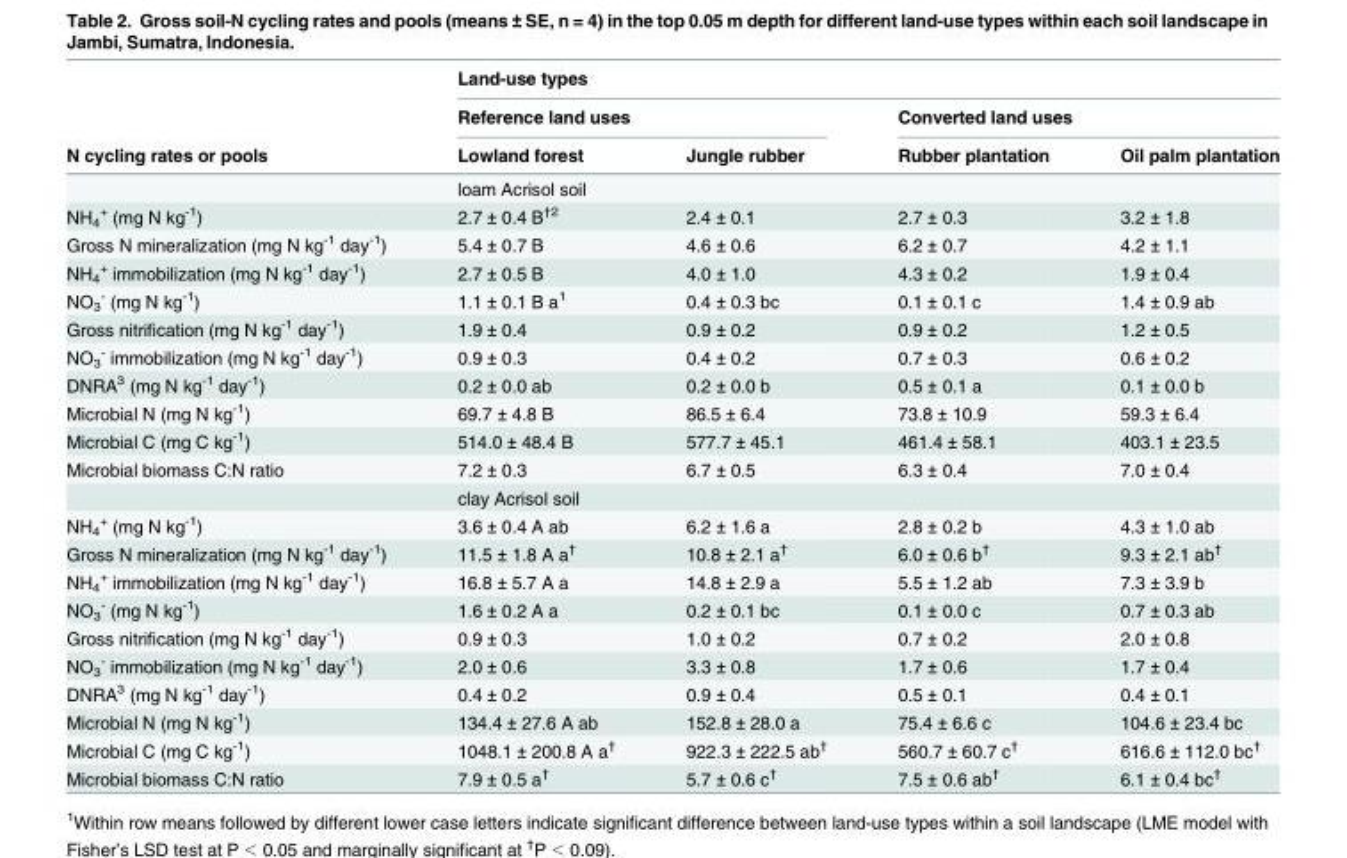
<table><thead><tr><td rowspan="3">N cycling rates or pools</td><td colspan="4">Land-use types</td></tr><tr><td colspan="2">Reference land uses</td><td colspan="2">Converted land uses</td></tr><tr><td>Lowland forest</td><td>Jungle rubber</td><td>Rubber plantation</td><td>Oil palm plantation</td></tr></thead><tbody><tr><td></td><td colspan="4">loam Acrisol soil</td></tr><tr><td>NH<sub>4</sub> <sup>+</sup> (mg N kg<sup>-1</sup>)</td><td>2.7 ± 0.4 B<sup>†2</sup></td><td>2.4 ± 0.1</td><td>2.7 ± 0.3</td><td>3.2 ± 1.8</td></tr><tr><td>Gross N mineralization (mg N kg<sup>-1</sup> day<sup>-1</sup>)</td><td>5.4 ± 0.7 B</td><td>4.6 ± 0.6</td><td>6.2 ± 0.7</td><td>4.2 ± 1.1</td></tr><tr><td>NH<sub>4</sub> <sup>+</sup> immobilization (mg N kg<sup>-1</sup> day<sup>-1</sup>)</td><td>2.7 ± 0.5 B</td><td>4.0 ± 1.0</td><td>4.3 ± 0.2</td><td>1.9 ± 0.4</td></tr><tr><td>NO<sub>3</sub> <sup>-</sup> (mg N kg<sup>-1</sup>)</td><td>1.1 ± 0.1 B a<sup>1</sup></td><td>0.4 ± 0.3 bc</td><td>0.1 ± 0.1 c</td><td>1.4 ± 0.9 ab</td></tr><tr><td>Gross nitrification (mg N kg<sup>-1</sup> day<sup>-1</sup>)</td><td>1.9 ± 0.4</td><td>0.9 ± 0.2</td><td>0.9 ± 0.2</td><td>1.2 ± 0.5</td></tr><tr><td>NO<sub>3</sub> <sup>-</sup> immobilization (mg N kg<sup>-1</sup> day<sup>-1</sup>)</td><td>0.9 ± 0.3</td><td>0.4 ± 0.2</td><td>0.7 ± 0.3</td><td>0.6 ± 0.2</td></tr><tr><td>DNRA<sup>3</sup> (mg N kg<sup>-1</sup> day<sup>-1</sup>)</td><td>0.2 ± 0.0 ab</td><td>0.2 ± 0.0 b</td><td>0.5 ± 0.1 a</td><td>0.1 ± 0.0 b</td></tr><tr><td>Microbial N (mg N kg<sup>-1</sup>)</td><td>69.7 ± 4.8 B</td><td>86.5 ± 6.4</td><td>73.8 ± 10.9</td><td>59.3 ± 6.4</td></tr><tr><td>Microbial C (mg C kg<sup>-1</sup>)</td><td>514.0 ± 48.4 B</td><td>577.7 ± 45.1</td><td>461.4 ± 58.1</td><td>403.1 ± 23.5</td></tr><tr><td rowspan="2">Microbial biomass C:N ratio</td><td>7.2 ± 0.3</td><td>6.7 ± 0.5</td><td>6.3 ± 0.4</td><td>7.0 ± 0.4</td></tr><tr><td colspan="4">clay Acrisol soil</td></tr><tr><td>NH<sub>4</sub> <sup>+</sup> (mg N kg<sup>-1</sup>)</td><td>3.6 ± 0.4 A ab</td><td>6.2 ± 1.6 a</td><td>2.8 ± 0.2 b</td><td>4.3 ± 1.0 ab</td></tr><tr><td>Gross N mineralization (mg N kg<sup>-1</sup> day<sup>-1</sup>)</td><td>11.5 ± 1.8 A a<sup>†</sup></td><td>10.8 ± 2.1 a<sup>†</sup></td><td>6.0 ± 0.6 b<sup>†</sup></td><td>9.3 ± 2.1 ab<sup>†</sup></td></tr><tr><td>NH<sub>4</sub> <sup>+</sup> immobilization (mg N kg<sup>-1</sup> day<sup>-1</sup>)</td><td>16.8 ± 5.7 A a</td><td>14.8 ± 2.9 a</td><td>5.5 ± 1.2 ab</td><td>7.3 ± 3.9 b</td></tr><tr><td>NO<sub>3</sub> <sup>-</sup> (mg N kg<sup>-1</sup>)</td><td>1.6 ± 0.2 A a</td><td>0.2 ± 0.1 bc</td><td>0.1 ± 0.0 c</td><td>0.7 ± 0.3 ab</td></tr><tr><td>Gross nitrification (mg N kg<sup>-1</sup> day<sup>-1</sup>)</td><td>0.9 ± 0.3</td><td>1.0 ± 0.2</td><td>0.7 ± 0.2</td><td>2.0 ± 0.8</td></tr><tr><td>NO<sub>3</sub> <sup>-</sup> immobilization (mg N kg<sup>-1</sup> day<sup>-1</sup>)</td><td>2.0 ± 0.6</td><td>3.3 ± 0.8</td><td>1.7 ± 0.6</td><td>1.7 ± 0.4</td></tr><tr><td>DNRA<sup>3</sup> (mg N kg<sup>-1</sup> day<sup>-1</sup>)</td><td>0.4 ± 0.2</td><td>0.9 ± 0.4</td><td>0.5 ± 0.1</td><td>0.4 ± 0.1</td></tr><tr><td>Microbial N (mg N kg<sup>-1</sup>)</td><td>134.4 ± 27.6 A ab</td><td>152.8 ± 28.0 a</td><td>75.4 ± 6.6 c</td><td>104.6 ± 23.4 bc</td></tr><tr><td>Microbial C (mg C kg<sup>-1</sup>)</td><td>1048.1 ± 200.8 A a<sup>†</sup></td><td>922.3 ± 222.5 ab<sup>†</sup></td><td>560.7 ± 60.7 c<sup>†</sup></td><td>616.6 ± 112.0 bc<sup>†</sup></td></tr><tr><td>Microbial biomass C:N ratio</td><td>7.9 ± 0.5 a<sup>†</sup></td><td>5.7 ± 0.6 c<sup>†</sup></td><td>7.5 ± 0.6 ab<sup>†</sup></td><td>6.1 ± 0.4 bc<sup>†</sup></td></tr></tbody></table>